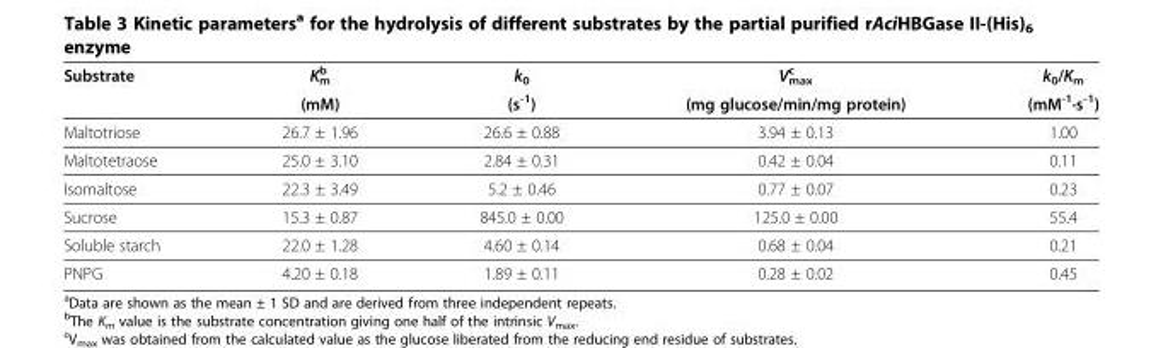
<table><thead><tr><td rowspan="2">Substrate</td><td rowspan="2">K<sub>m</sub> <sup>b</sup> (mM)</td><td rowspan="2">k<sub>0</sub> (s<sup>-1</sup>)</td><td rowspan="2">V<sub>max</sub> <sup>c</sup> (mg glucose/min/mg protein)</td><td rowspan="2">k<sub>0</sub>/K<sub>m</sub> (mM<sup>-1</sup>·s<sup>-1</sup>)</td></tr><tr></tr></thead><tbody><tr><td>Maltotriose</td><td>26.7 ± 1.96</td><td>26.6 ± 0.88</td><td>3.94 ± 0.13</td><td>1.00</td></tr><tr><td>Maltotetraose</td><td>25.0 ± 3.10</td><td>2.84 ± 0.31</td><td>0.42 ± 0.04</td><td>0.11</td></tr><tr><td>Isomaltose</td><td>22.3 ± 3.49</td><td>5.2 ± 0.46</td><td>0.77 ± 0.07</td><td>0.23</td></tr><tr><td>Sucrose</td><td>15.3 ± 0.87</td><td>845.0 ± 0.00</td><td>125.0 ± 0.00</td><td>55.4</td></tr><tr><td>Soluble starch</td><td>22.0 ± 1.28</td><td>4.60 ± 0.14</td><td>0.68 ± 0.04</td><td>0.21</td></tr><tr><td>PNPG</td><td>4.20 ± 0.18</td><td>1.89 ± 0.11</td><td>0.28 ± 0.02</td><td>0.45</td></tr></tbody></table>